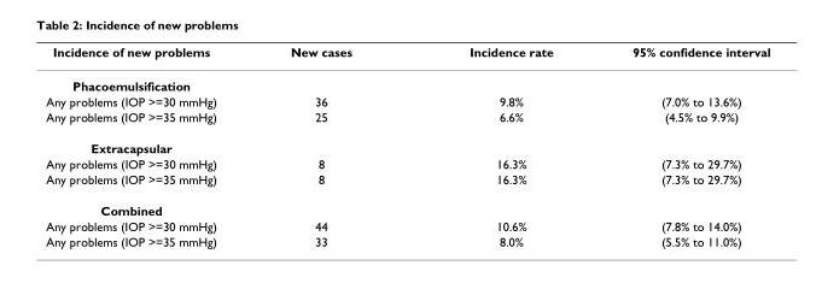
<table><thead><tr><td>Incidence of new problems</td><td>New cases</td><td>Incidence rate</td><td>95% confidence interval</td></tr></thead><tbody><tr><td colspan="4">Phacoemulsification</td></tr><tr><td>Any problems (IOP &gt;=30 mmHg)</td><td>36</td><td>9.8%</td><td>(7.0% to 13.6%)</td></tr><tr><td>Any problems (IOP &gt;=35 mmHg)</td><td>25</td><td>6.6%</td><td>(4.5% to 9.9%)</td></tr><tr><td colspan="4">Extracapsular</td></tr><tr><td>Any problems (IOP &gt;=30 mmHg)</td><td>8</td><td>16.3%</td><td>(7.3% to 29.7%)</td></tr><tr><td>Any problems (IOP &gt;=35 mmHg)</td><td>8</td><td>16.3%</td><td>(7.3% to 29.7%)</td></tr><tr><td colspan="4">Combined</td></tr><tr><td>Any problems (IOP &gt;=30 mmHg)</td><td>44</td><td>10.6%</td><td>(7.8% to 14.0%)</td></tr><tr><td>Any problems (IOP &gt;=35 mmHg)</td><td>33</td><td>8.0%</td><td>(5.5% to 11.0%)</td></tr></tbody></table>